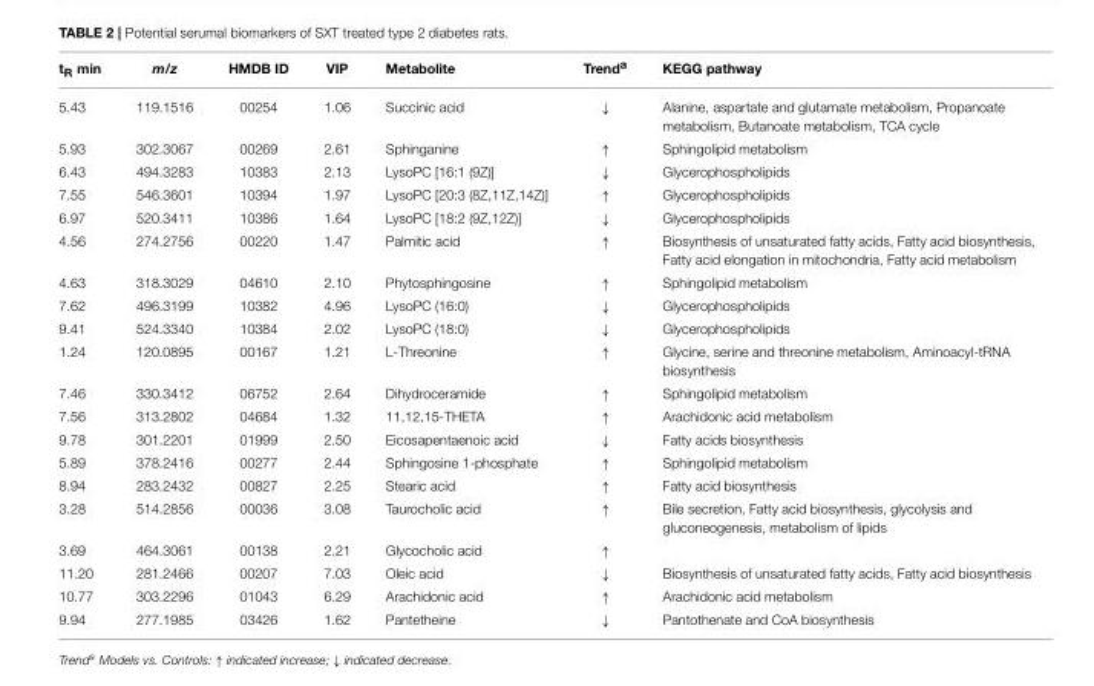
<table><thead><tr><td>t<sub>R</sub> min</td><td>m/z</td><td>HMDB ID</td><td>VIP</td><td>Metabolite</td><td>Trend<sup>a</sup></td><td>KEGG pathway</td></tr></thead><tbody><tr><td>5.43</td><td>119.1516</td><td>00254</td><td>1.06</td><td>Succinic acid</td><td>↓</td><td>Alanine, aspartate and glutamate metabolism, Propanoate metabolism, Butanoate metabolism, TCA cycle</td></tr><tr><td>5.93</td><td>302.3067</td><td>00269</td><td>2.61</td><td>Sphinganine</td><td>↑</td><td>Sphingolipid metabolism</td></tr><tr><td>6.43</td><td>494.3283</td><td>10383</td><td>2.13</td><td>LysoPC [16:1 (9Z)]</td><td>↓</td><td>Glycerophospholipids</td></tr><tr><td>7.55</td><td>546.3601</td><td>10394</td><td>1.97</td><td>LysoPC [20:3 (8Z,11Z,14Z)]</td><td>↑</td><td>Glycerophospholipids</td></tr><tr><td>6.97</td><td>520.3411</td><td>10386</td><td>1.64</td><td>LysoPC [18:2 (9Z,12Z)]</td><td>↓</td><td>Glycerophospholipids</td></tr><tr><td>4.56</td><td>274.2756</td><td>00220</td><td>1.47</td><td>Palmitic acid</td><td>↑</td><td>Biosynthesis of unsaturated fatty acids, Fatty acid biosynthesis, Fatty acid elongation in mitochondria, Fatty acid metabolism</td></tr><tr><td>4.63</td><td>318.3029</td><td>04610</td><td>2.10</td><td>Phytosphingosine</td><td>↑</td><td>Sphingolipid metabolism</td></tr><tr><td>7.62</td><td>496.3199</td><td>10382</td><td>4.96</td><td>LysoPC (16:0)</td><td>↓</td><td>Glycerophospholipids</td></tr><tr><td>9.41</td><td>524.3340</td><td>10384</td><td>2.02</td><td>LysoPC (18:0)</td><td>↓</td><td>Glycerophospholipids</td></tr><tr><td>1.24</td><td>120.0895</td><td>00167</td><td>1.21</td><td>L-Threonine</td><td>↑</td><td>Glycine, serine and threonine metabolism, Aminoacyl-tRNA biosynthesis</td></tr><tr><td>7.46</td><td>330.3412</td><td>06752</td><td>2.64</td><td>Dihydroceramide</td><td>↑</td><td>Sphingolipid metabolism</td></tr><tr><td>7.56</td><td>313.2802</td><td>04684</td><td>1.32</td><td>11,12,15-THETA</td><td>↑</td><td>Arachidonic acid metabolism</td></tr><tr><td>9.78</td><td>301.2201</td><td>01999</td><td>2.50</td><td>Eicosapentaenoic acid</td><td>↓</td><td>Fatty acids biosynthesis</td></tr><tr><td>5.89</td><td>378.2416</td><td>00277</td><td>2.44</td><td>Sphingosine 1-phosphate</td><td>↑</td><td>Sphingolipid metabolism</td></tr><tr><td>8.94</td><td>283.2432</td><td>00827</td><td>2.25</td><td>Stearic acid</td><td>↑</td><td>Fatty acid biosynthesis</td></tr><tr><td>3.28</td><td>514.2856</td><td>00036</td><td>3.08</td><td>Taurocholic acid</td><td>↑</td><td>Bile secretion, Fatty acid biosynthesis, glycolysis and gluconeogenesis, metabolism of lipids</td></tr><tr><td>3.69</td><td>464.3061</td><td>00138</td><td>2.21</td><td>Glycocholic acid</td><td>↑</td><td></td></tr><tr><td>11.20</td><td>281.2466</td><td>00207</td><td>7.03</td><td>Oleic acid</td><td>↓</td><td>Biosynthesis of unsaturated fatty acids, Fatty acid biosynthesis</td></tr><tr><td>10.77</td><td>303.2296</td><td>01043</td><td>6.29</td><td>Arachidonic acid</td><td>↑</td><td>Arachidonic acid metabolism</td></tr><tr><td>9.94</td><td>277.1985</td><td>03426</td><td>1.62</td><td>Pantetheine</td><td>↓</td><td>Pantothenate and CoA biosynthesis</td></tr></tbody></table>